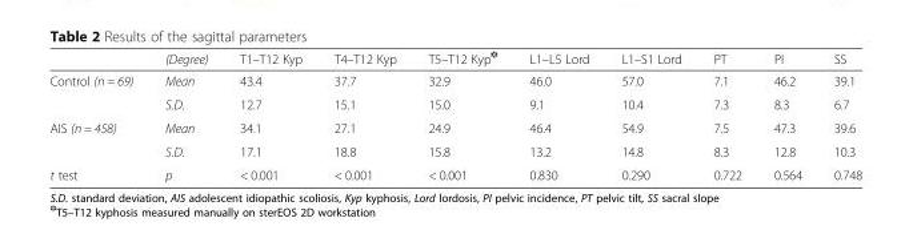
<table><thead><tr><td></td><td>(Degree)</td><td>T1–T12 Kyp</td><td>T4–T12 Kyp</td><td>T5–T12 Kyp<sup>✽</sup></td><td>L1–L5 Lord</td><td>L1–S1 Lord</td><td>PT</td><td>PI</td><td>SS</td></tr></thead><tbody><tr><td rowspan="2">Control (n = 69)</td><td>Mean</td><td>43.4</td><td>37.7</td><td>32.9</td><td>46.0</td><td>57.0</td><td>7.1</td><td>46.2</td><td>39.1</td></tr><tr><td>S.D.</td><td>12.7</td><td>15.1</td><td>15.0</td><td>9.1</td><td>10.4</td><td>7.3</td><td>8.3</td><td>6.7</td></tr><tr><td rowspan="2">AIS (n = 458)</td><td>Mean</td><td>34.1</td><td>27.1</td><td>24.9</td><td>46.4</td><td>54.9</td><td>7.5</td><td>47.3</td><td>39.6</td></tr><tr><td>S.D.</td><td>17.1</td><td>18.8</td><td>15.8</td><td>13.2</td><td>14.8</td><td>8.3</td><td>12.8</td><td>10.3</td></tr><tr><td>t test</td><td>p</td><td>&lt; 0.001</td><td>&lt; 0.001</td><td>&lt; 0.001</td><td>0.830</td><td>0.290</td><td>0.722</td><td>0.564</td><td>0.748</td></tr></tbody></table>